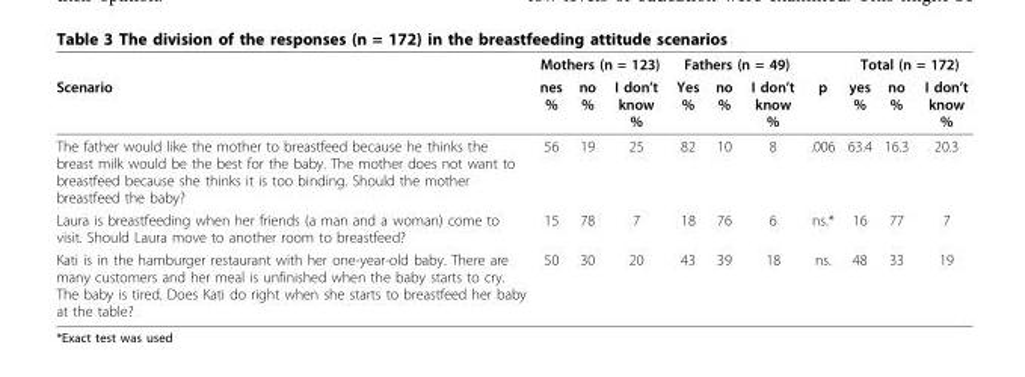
<table><thead><tr><td rowspan="2">Scenario</td><td colspan="3">Mothers (n = 123)</td><td colspan="3">Fathers (n = 49)</td><td rowspan="2">p</td><td colspan="3">Total (n = 172)</td></tr><tr><td>nes %</td><td>no %</td><td>I don’t know %</td><td>Yes %</td><td>no %</td><td>I don’t know %</td><td>yes %</td><td>no %</td><td>I don’t know %</td></tr></thead><tbody><tr><td>The father would like the mother to breastfeed because he thinks the breast milk would be the best for the baby. The mother does not want to breastfeed because she thinks it is too binding. Should the mother breastfeed the baby?</td><td>56</td><td>19</td><td>25</td><td>82</td><td>10</td><td>8</td><td>.006</td><td>63.4</td><td>16.3</td><td>20.3</td></tr><tr><td>Laura is breastfeeding when her friends (a man and a woman) come to visit. Should Laura move to another room to breastfeed?</td><td>15</td><td>78</td><td>7</td><td>18</td><td>76</td><td>6</td><td>ns.*</td><td>16</td><td>77</td><td>7</td></tr><tr><td>Kati is in the hamburger restaurant with her one-year-old baby. There are many customers and her meal is unfinished when the baby starts to cry. The baby is tired. Does Kati do right when she starts to breastfeed her baby at the table?</td><td>50</td><td>30</td><td>20</td><td>43</td><td>39</td><td>18</td><td>ns.</td><td>48</td><td>33</td><td>19</td></tr></tbody></table>